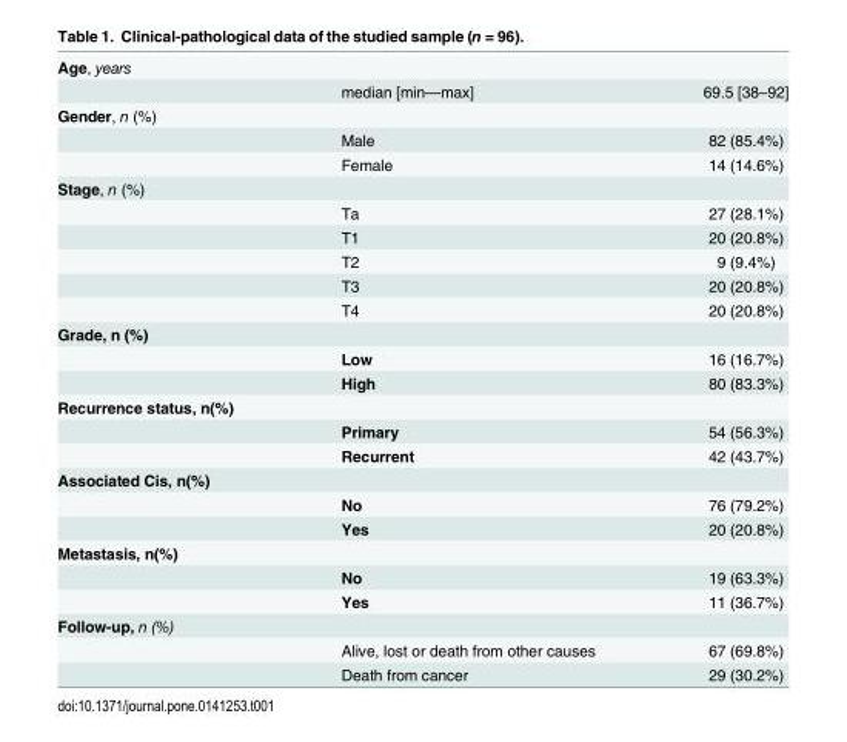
<table><tbody><tr><td colspan="3">Age, years</td></tr><tr><td></td><td>median [min—max]</td><td>69.5 [38–92]</td></tr><tr><td colspan="3">Gender, n (%)</td></tr><tr><td></td><td>Male</td><td>82 (85.4%)</td></tr><tr><td></td><td>Female</td><td>14 (14.6%)</td></tr><tr><td colspan="3">Stage, n (%)</td></tr><tr><td></td><td>Ta</td><td>27 (28.1%)</td></tr><tr><td></td><td>T1</td><td>20 (20.8%)</td></tr><tr><td></td><td>T2</td><td>9 (9.4%)</td></tr><tr><td></td><td>T3</td><td>20 (20.8%)</td></tr><tr><td></td><td>T4</td><td>20 (20.8%)</td></tr><tr><td colspan="3">Grade, n (%)</td></tr><tr><td></td><td>Low</td><td>16 (16.7%)</td></tr><tr><td></td><td>High</td><td>80 (83.3%)</td></tr><tr><td colspan="3">Recurrence status, n(%)</td></tr><tr><td></td><td>Primary</td><td>54 (56.3%)</td></tr><tr><td></td><td>Recurrent</td><td>42 (43.7%)</td></tr><tr><td colspan="3">Associated Cis, n(%)</td></tr><tr><td></td><td>No</td><td>76 (79.2%)</td></tr><tr><td></td><td>Yes</td><td>20 (20.8%)</td></tr><tr><td colspan="3">Metastasis, n(%)</td></tr><tr><td></td><td>No</td><td>19 (63.3%)</td></tr><tr><td></td><td>Yes</td><td>11 (36.7%)</td></tr><tr><td colspan="3">Follow-up, n (%)</td></tr><tr><td></td><td>Alive, lost or death from other causes</td><td>67 (69.8%)</td></tr><tr><td></td><td>Death from cancer</td><td>29 (30.2%)</td></tr></tbody></table>